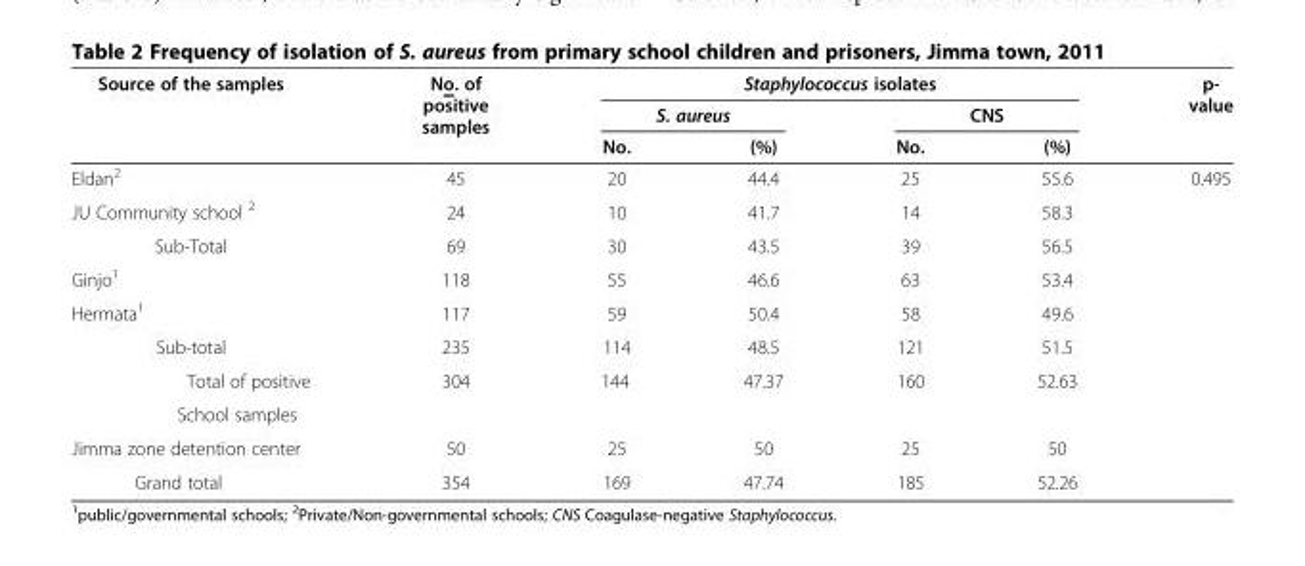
<table><thead><tr><td rowspan="3">Source of the samples</td><td rowspan="3">No. of positive samples</td><td colspan="4">Staphylococcus isolates</td><td rowspan="3">p- value</td></tr><tr><td colspan="2">S. aureus</td><td colspan="2">CNS</td></tr><tr><td>No.</td><td>(%)</td><td>No.</td><td>(%)</td></tr></thead><tbody><tr><td>Eldan<sup>2</sup></td><td>45</td><td>20</td><td>44.4</td><td>25</td><td>55.6</td><td rowspan="9">0.495</td></tr><tr><td>JU Community school <sup>2</sup></td><td>24</td><td>10</td><td>41.7</td><td>14</td><td>58.3</td></tr><tr><td>Sub-Total</td><td>69</td><td>30</td><td>43.5</td><td>39</td><td>56.5</td></tr><tr><td>Ginjo<sup>1</sup></td><td>118</td><td>55</td><td>46.6</td><td>63</td><td>53.4</td></tr><tr><td>Hermata<sup>1</sup></td><td>117</td><td>59</td><td>50.4</td><td>58</td><td>49.6</td></tr><tr><td>Sub-total</td><td>235</td><td>114</td><td>48.5</td><td>121</td><td>51.5</td></tr><tr><td>Total of positive</td><td rowspan="2">304</td><td rowspan="2">144</td><td rowspan="2">47.37</td><td rowspan="2">160</td><td rowspan="2">52.63</td></tr><tr><td>School samples</td></tr><tr><td>Jimma zone detention center</td><td>50</td><td>25</td><td>50</td><td>25</td><td>50</td></tr><tr><td>Grand total</td><td>354</td><td>169</td><td>47.74</td><td>185</td><td>52.26</td><td></td></tr></tbody></table>